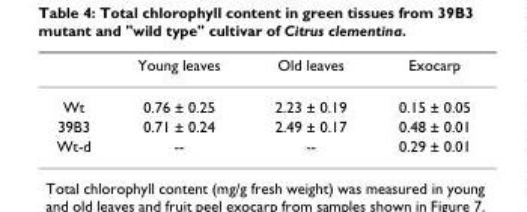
<table><thead><tr><td></td><td>Young leaves</td><td>Old leaves</td><td>Exocarp</td></tr></thead><tbody><tr><td>Wt</td><td>0.76 ± 0.25</td><td>2.23 ± 0.19</td><td>0.15 ± 0.05</td></tr><tr><td>39B3</td><td>0.71 ± 0.24</td><td>2.49 ± 0.17</td><td>0.48 ± 0.01</td></tr><tr><td>Wt-d</td><td>--</td><td>--</td><td>0.29 ± 0.01</td></tr></tbody></table>